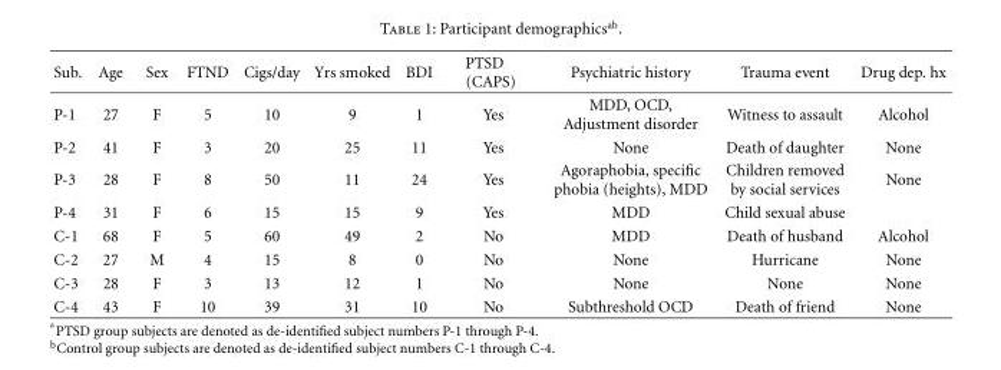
<table><thead><tr><td>Sub.</td><td>Age</td><td>Sex</td><td>FTND</td><td>Cigs/day</td><td>Yrs smoked</td><td>BDI</td><td>PTSD (CAPS)</td><td>Psychiatric history</td><td>Trauma event</td><td>Drug dep. hx</td></tr></thead><tbody><tr><td>P-1</td><td>27</td><td>F</td><td>5</td><td>10</td><td>9</td><td>1</td><td>Yes</td><td>MDD, OCD, Adjustment disorder</td><td>Witness to assault</td><td>Alcohol</td></tr><tr><td>P-2</td><td>41</td><td>F</td><td>3</td><td>20</td><td>25</td><td>11</td><td>Yes</td><td>None</td><td>Death of daughter</td><td>None</td></tr><tr><td>P-3</td><td>28</td><td>F</td><td>8</td><td>50</td><td>11</td><td>24</td><td>Yes</td><td>Agoraphobia, specific phobia (heights), MDD</td><td>Children removed by social services</td><td>None</td></tr><tr><td>P-4</td><td>31</td><td>F</td><td>6</td><td>15</td><td>15</td><td>9</td><td>Yes</td><td>MDD</td><td>Child sexual abuse</td><td></td></tr><tr><td>C-1</td><td>68</td><td>F</td><td>5</td><td>60</td><td>49</td><td>2</td><td>No</td><td>MDD</td><td>Death of husband</td><td>Alcohol</td></tr><tr><td>C-2</td><td>27</td><td>M</td><td>4</td><td>15</td><td>8</td><td>0</td><td>No</td><td>None</td><td>Hurricane</td><td>None</td></tr><tr><td>C-3</td><td>28</td><td>F</td><td>3</td><td>13</td><td>12</td><td>1</td><td>No</td><td>None</td><td>None</td><td>None</td></tr><tr><td>C-4</td><td>43</td><td>F</td><td>10</td><td>39</td><td>31</td><td>10</td><td>No</td><td>Subthreshold OCD</td><td>Death of friend</td><td>None</td></tr></tbody></table>